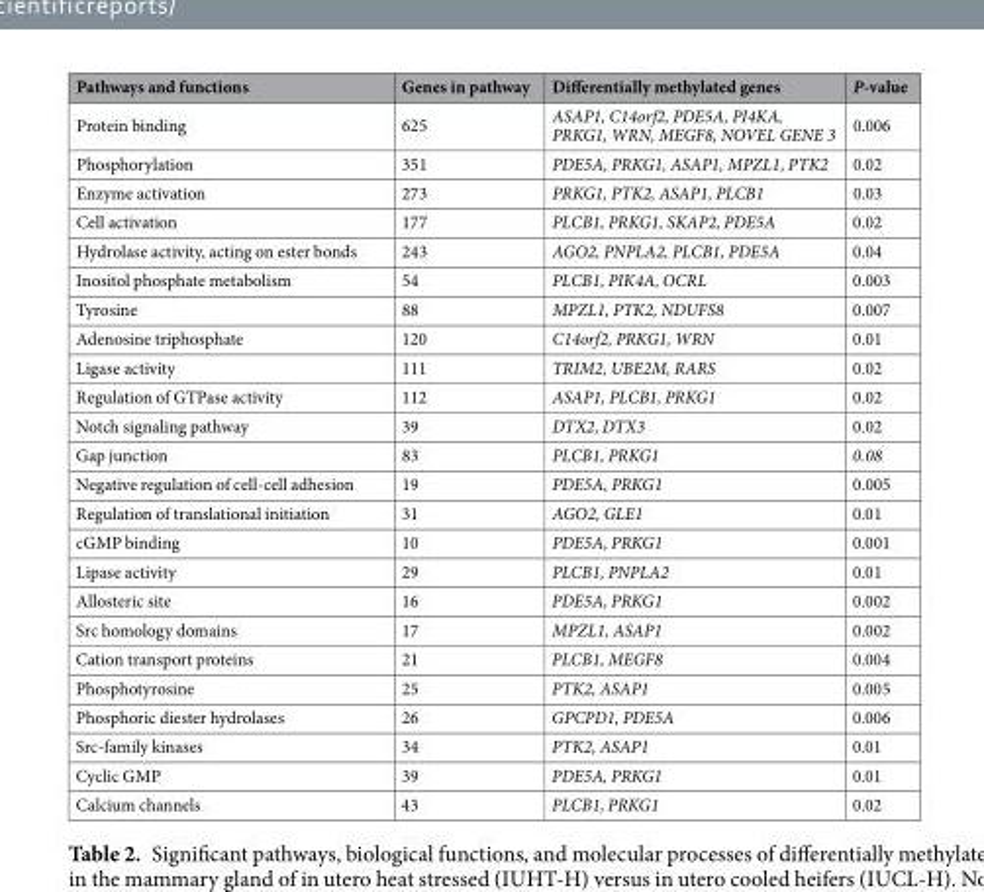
<table><thead><tr><td>Pathways and functions</td><td>Genes in pathway</td><td>Differentially methylated genes</td><td>P-value</td></tr></thead><tbody><tr><td>Protein binding</td><td>625</td><td>ASAP1, C14orf2, PDE5A, PI4KA, PRKG1, WRN, MEGF8, NOVEL GENE 3</td><td>0.006</td></tr><tr><td>Phosphorylation</td><td>351</td><td>PDE5A, PRKG1, ASAP1, MPZL1, PTK2</td><td>0.02</td></tr><tr><td>Enzyme activation</td><td>273</td><td>PRKG1, PTK2, ASAP1, PLCB1</td><td>0.03</td></tr><tr><td>Cell activation</td><td>177</td><td>PLCB1, PRKG1, SKAP2, PDE5A</td><td>0.02</td></tr><tr><td>Hydrolase activity, acting on ester bonds</td><td>243</td><td>AGO2, PNPLA2, PLCB1, PDE5A</td><td>0.04</td></tr><tr><td>Inositol phosphate metabolism</td><td>54</td><td>PLCB1, PIK4A, OCRL</td><td>0.003</td></tr><tr><td>Tyrosine</td><td>88</td><td>MPZL1, PTK2, NDUFS8</td><td>0.007</td></tr><tr><td>Adenosine triphosphate</td><td>120</td><td>C14orf2, PRKG1, WRN</td><td>0.01</td></tr><tr><td>Ligase activity</td><td>111</td><td>TRIM2, UBE2M, RARS</td><td>0.02</td></tr><tr><td>Regulation of GTPase activity</td><td>112</td><td>ASAP1, PLCB1, PRKG1</td><td>0.02</td></tr><tr><td>Notch signaling pathway</td><td>39</td><td>DTX2, DTX3</td><td>0.02</td></tr><tr><td>Gap junction</td><td>83</td><td>PLCB1, PRKG1</td><td>0.08</td></tr><tr><td>Negative regulation of cell-cell adhesion</td><td>19</td><td>PDE5A, PRKG1</td><td>0.005</td></tr><tr><td>Regulation of translational initiation</td><td>31</td><td>AGO2, GLE1</td><td>0.01</td></tr><tr><td>cGMP binding</td><td>10</td><td>PDE5A, PRKG1</td><td>0.001</td></tr><tr><td>Lipase activity</td><td>29</td><td>PLCB1, PNPLA2</td><td>0.01</td></tr><tr><td>Allosteric site</td><td>16</td><td>PDE5A, PRKG1</td><td>0.002</td></tr><tr><td>Src homology domains</td><td>17</td><td>MPZL1, ASAP1</td><td>0.002</td></tr><tr><td>Cation transport proteins</td><td>21</td><td>PLCB1, MEGF8</td><td>0.004</td></tr><tr><td>Phosphotyrosine</td><td>25</td><td>PTK2, ASAP1</td><td>0.005</td></tr><tr><td>Phosphoric diester hydrolases</td><td>26</td><td>GPCPD1, PDE5A</td><td>0.006</td></tr><tr><td>Src-family kinases</td><td>34</td><td>PTK2, ASAP1</td><td>0.01</td></tr><tr><td>Cyclic GMP</td><td>39</td><td>PDE5A, PRKG1</td><td>0.01</td></tr><tr><td>Calcium channels</td><td>43</td><td>PLCB1, PRKG1</td><td>0.02</td></tr></tbody></table>